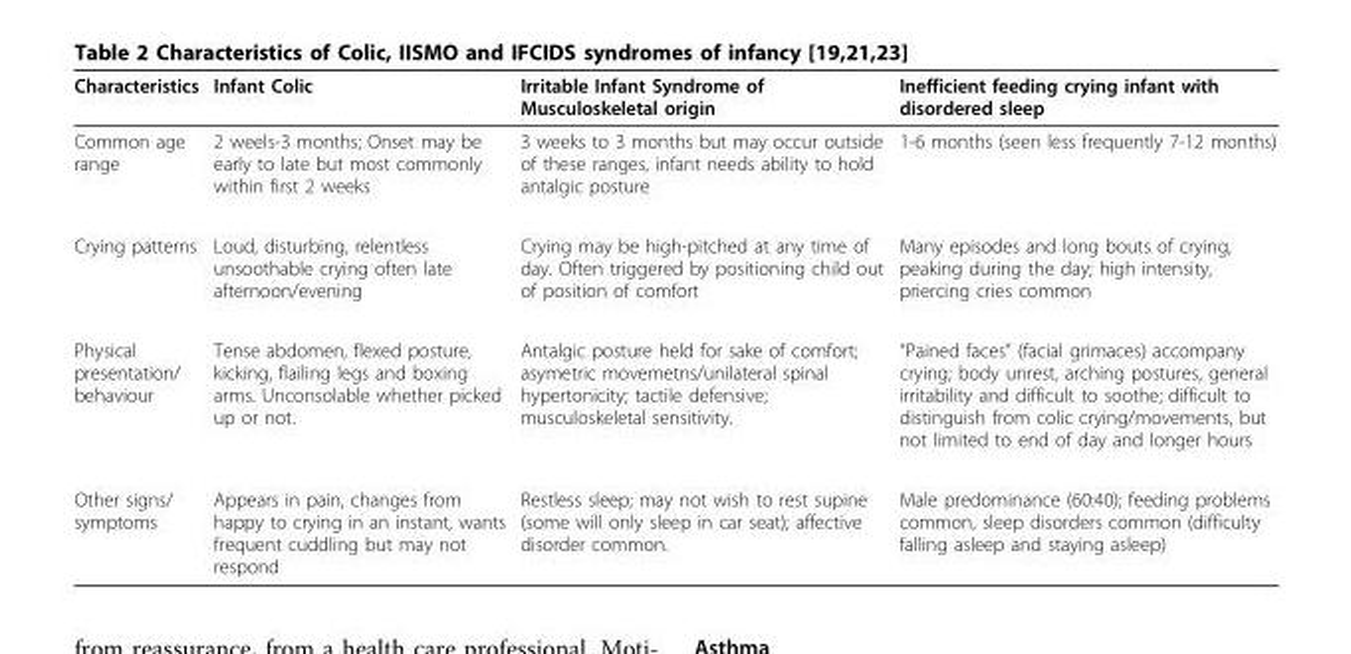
<table><thead><tr><td>Characteristics</td><td>Infant Colic</td><td>Irritable Infant Syndrome of Musculoskeletal origin</td><td>Inefficient feeding crying infant with disordered sleep</td></tr></thead><tbody><tr><td>Common age range</td><td>2 weels-3 months; Onset may be early to late but most commonly within first 2 weeks</td><td>3 weeks to 3 months but may occur outside of these ranges, infant needs ability to hold antalgic posture</td><td>1-6 months (seen less frequently 7-12 months)</td></tr><tr><td>Crying patterns</td><td>Loud, disturbing, relentless unsoothable crying often late afternoon/evening</td><td>Crying may be high-pitched at any time of day. Often triggered by positioning child out of position of comfort</td><td>Many episodes and long bouts of crying, peaking during the day; high intensity, priercing cries common</td></tr><tr><td>Physical presentation/ behaviour</td><td>Tense abdomen, flexed posture, kicking, flailing legs and boxing arms. Unconsolable whether picked up or not.</td><td>Antalgic posture held for sake of comfort; asymetric movemetns/unilateral spinal hypertonicity; tactile defensive; musculoskeletal sensitivity.</td><td>“Pained faces” (facial grimaces) accompany crying; body unrest, arching postures, general irritability and difficult to soothe; difficult to distinguish from colic crying/movements, but not limited to end of day and longer hours</td></tr><tr><td>Other signs/ symptoms</td><td>Appears in pain, changes from happy to crying in an instant, wants frequent cuddling but may not respond</td><td>Restless sleep; may not wish to rest supine (some will only sleep in car seat); affective disorder common.</td><td>Male predominance (60:40); feeding problems common, sleep disorders common (difficulty falling asleep and staying asleep)</td></tr></tbody></table>